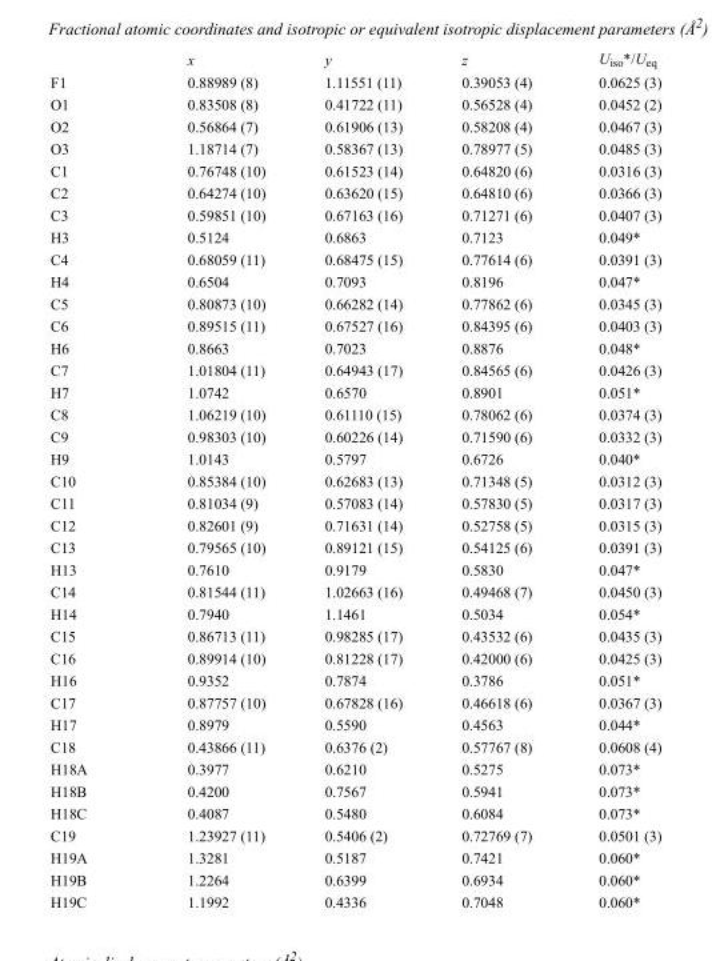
<table><thead><tr><td></td><td>x</td><td>y</td><td>z</td><td>U<sub>iso</sub>*/U<sub>eq</sub></td></tr></thead><tbody><tr><td>F1</td><td>0.88989 (8)</td><td>1.11551 (11)</td><td>0.39053 (4)</td><td>0.0625 (3)</td></tr><tr><td>O1</td><td>0.83508 (8)</td><td>0.41722 (11)</td><td>0.56528 (4)</td><td>0.0452 (2)</td></tr><tr><td>O2</td><td>0.56864 (7)</td><td>0.61906 (13)</td><td>0.58208 (4)</td><td>0.0467 (3)</td></tr><tr><td>O3</td><td>1.18714 (7)</td><td>0.58367 (13)</td><td>0.78977 (5)</td><td>0.0485 (3)</td></tr><tr><td>C1</td><td>0.76748 (10)</td><td>0.61523 (14)</td><td>0.64820 (6)</td><td>0.0316 (3)</td></tr><tr><td>C2</td><td>0.64274 (10)</td><td>0.63620 (15)</td><td>0.64810 (6)</td><td>0.0366 (3)</td></tr><tr><td>C3</td><td>0.59851 (10)</td><td>0.67163 (16)</td><td>0.71271 (6)</td><td>0.0407 (3)</td></tr><tr><td>H3</td><td>0.5124</td><td>0.6863</td><td>0.7123</td><td>0.049*</td></tr><tr><td>C4</td><td>0.68059 (11)</td><td>0.68475 (15)</td><td>0.77614 (6)</td><td>0.0391 (3)</td></tr><tr><td>H4</td><td>0.6504</td><td>0.7093</td><td>0.8196</td><td>0.047*</td></tr><tr><td>C5</td><td>0.80873 (10)</td><td>0.66282 (14)</td><td>0.77862 (6)</td><td>0.0345 (3)</td></tr><tr><td>C6</td><td>0.89515 (11)</td><td>0.67527 (16)</td><td>0.84395 (6)</td><td>0.0403 (3)</td></tr><tr><td>H6</td><td>0.8663</td><td>0.7023</td><td>0.8876</td><td>0.048*</td></tr><tr><td>C7</td><td>1.01804 (11)</td><td>0.64943 (17)</td><td>0.84565 (6)</td><td>0.0426 (3)</td></tr><tr><td>H7</td><td>1.0742</td><td>0.6570</td><td>0.8901</td><td>0.051*</td></tr><tr><td>C8</td><td>1.06219 (10)</td><td>0.61110 (15)</td><td>0.78062 (6)</td><td>0.0374 (3)</td></tr><tr><td>C9</td><td>0.98303 (10)</td><td>0.60226 (14)</td><td>0.71590 (6)</td><td>0.0332 (3)</td></tr><tr><td>H9</td><td>1.0143</td><td>0.5797</td><td>0.6726</td><td>0.040*</td></tr><tr><td>C10</td><td>0.85384 (10)</td><td>0.62683 (13)</td><td>0.71348 (5)</td><td>0.0312 (3)</td></tr><tr><td>C11</td><td>0.81034 (9)</td><td>0.57083 (14)</td><td>0.57830 (5)</td><td>0.0317 (3)</td></tr><tr><td>C12</td><td>0.82601 (9)</td><td>0.71631 (14)</td><td>0.52758 (5)</td><td>0.0315 (3)</td></tr><tr><td>C13</td><td>0.79565 (10)</td><td>0.89121 (15)</td><td>0.54125 (6)</td><td>0.0391 (3)</td></tr><tr><td>H13</td><td>0.7610</td><td>0.9179</td><td>0.5830</td><td>0.047*</td></tr><tr><td>C14</td><td>0.81544 (11)</td><td>1.02663 (16)</td><td>0.49468 (7)</td><td>0.0450 (3)</td></tr><tr><td>H14</td><td>0.7940</td><td>1.1461</td><td>0.5034</td><td>0.054*</td></tr><tr><td>C15</td><td>0.86713 (11)</td><td>0.98285 (17)</td><td>0.43532 (6)</td><td>0.0435 (3)</td></tr><tr><td>C16</td><td>0.89914 (10)</td><td>0.81228 (17)</td><td>0.42000 (6)</td><td>0.0425 (3)</td></tr><tr><td>H16</td><td>0.9352</td><td>0.7874</td><td>0.3786</td><td>0.051*</td></tr><tr><td>C17</td><td>0.87757 (10)</td><td>0.67828 (16)</td><td>0.46618 (6)</td><td>0.0367 (3)</td></tr><tr><td>H17</td><td>0.8979</td><td>0.5590</td><td>0.4563</td><td>0.044*</td></tr><tr><td>C18</td><td>0.43866 (11)</td><td>0.6376 (2)</td><td>0.57767 (8)</td><td>0.0608 (4)</td></tr><tr><td>H18A</td><td>0.3977</td><td>0.6210</td><td>0.5275</td><td>0.073*</td></tr><tr><td>H18B</td><td>0.4200</td><td>0.7567</td><td>0.5941</td><td>0.073*</td></tr><tr><td>H18C</td><td>0.4087</td><td>0.5480</td><td>0.6084</td><td>0.073*</td></tr><tr><td>C19</td><td>1.23927 (11)</td><td>0.5406 (2)</td><td>0.72769 (7)</td><td>0.0501 (3)</td></tr><tr><td>H19A</td><td>1.3281</td><td>0.5187</td><td>0.7421</td><td>0.060*</td></tr><tr><td>H19B</td><td>1.2264</td><td>0.6399</td><td>0.6934</td><td>0.060*</td></tr><tr><td>H19C</td><td>1.1992</td><td>0.4336</td><td>0.7048</td><td>0.060*</td></tr></tbody></table>